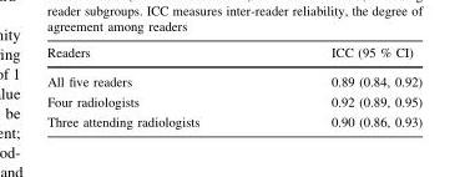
<table><thead><tr><td>Readers</td><td>ICC (95 % CI)</td></tr></thead><tbody><tr><td>All five readers</td><td>0.89 (0.84, 0.92)</td></tr><tr><td>Four radiologists</td><td>0.92 (0.89, 0.95)</td></tr><tr><td>Three attending radiologists</td><td>0.90 (0.86, 0.93)</td></tr></tbody></table>